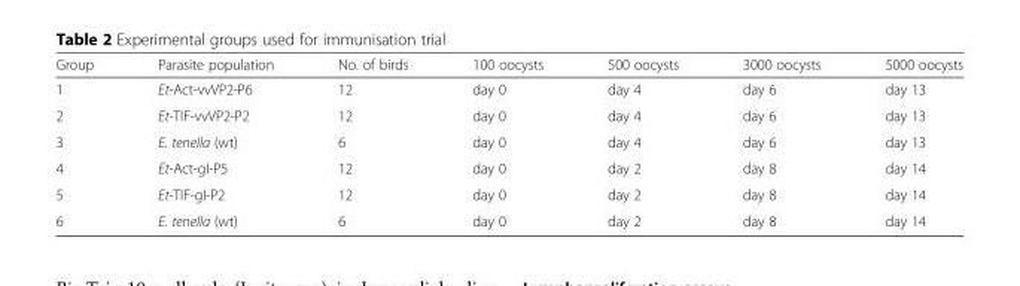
<table><thead><tr><td>Group</td><td>Parasite population</td><td>No. of birds</td><td>100 oocysts</td><td>500 oocysts</td><td>3000 oocysts</td><td>5000 oocysts</td></tr></thead><tbody><tr><td>1</td><td>Et-Act-vvVP2-P6</td><td>12</td><td>day 0</td><td>day 4</td><td>day 6</td><td>day 13</td></tr><tr><td>2</td><td>Et-TIF-vvVP2-P2</td><td>12</td><td>day 0</td><td>day 4</td><td>day 6</td><td>day 13</td></tr><tr><td>3</td><td>E. tenella (wt)</td><td>6</td><td>day 0</td><td>day 4</td><td>day 6</td><td>day 13</td></tr><tr><td>4</td><td>Et-Act-gI-P5</td><td>12</td><td>day 0</td><td>day 2</td><td>day 8</td><td>day 14</td></tr><tr><td>5</td><td>Et-TIF-gI-P2</td><td>12</td><td>day 0</td><td>day 2</td><td>day 8</td><td>day 14</td></tr><tr><td>6</td><td>E. tenella (wt)</td><td>6</td><td>day 0</td><td>day 2</td><td>day 8</td><td>day 14</td></tr></tbody></table>